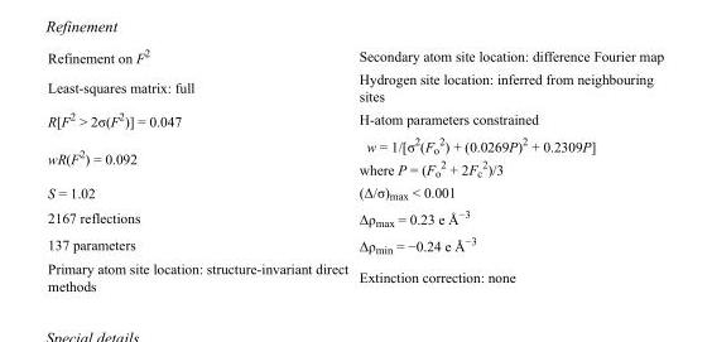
<table><tbody><tr><td>Refinement on F<sup>2</sup></td><td>Secondary atom site location: difference Fourier map</td></tr><tr><td>Least-squares matrix: full</td><td>Hydrogen site location: inferred from neighbouring sites</td></tr><tr><td>R[F<sup>2</sup> &gt; 2σ(F<sup>2</sup>)] = 0.047</td><td>H-atom parameters constrained</td></tr><tr><td>wR(F<sup>2</sup>) = 0.092</td><td>w = 1/[σ<sup>2</sup>(F<sub>o</sub> <sup>2</sup>) + (0.0269P)<sup>2</sup> + 0.2309P] where P = (F<sub>o</sub> <sup>2</sup> + 2F<sub>c</sub> <sup>2</sup>)/3</td></tr><tr><td>S = 1.02</td><td>(Δ/σ)<sub>max</sub> &lt; 0.001</td></tr><tr><td>2167 reflections</td><td>Δρ<sub>max</sub> = 0.23 e Å<sup>−3</sup></td></tr><tr><td>137 parameters</td><td>Δρ<sub>min</sub> = −0.24 e Å<sup>−3</sup></td></tr><tr><td>Primary atom site location: structure-invariant direct methods</td><td>Extinction correction: none</td></tr></tbody></table>